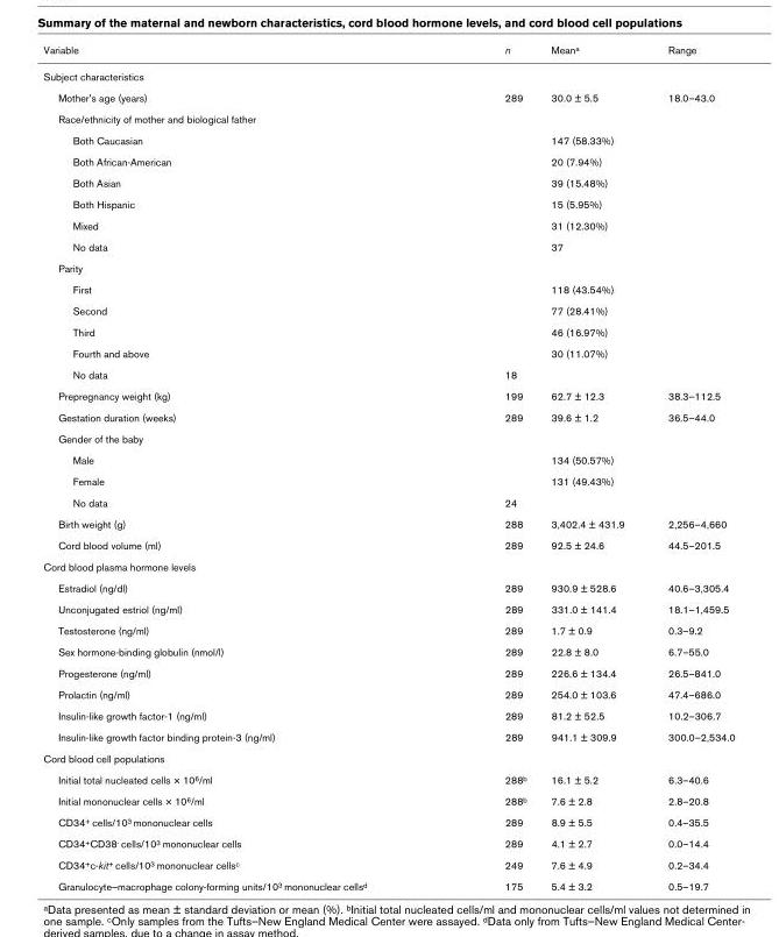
<table><thead><tr><td>Variable</td><td>n</td><td>Mean<sup>a</sup></td><td>Range</td></tr></thead><tbody><tr><td colspan="4">Subject characteristics</td></tr><tr><td>Mother&#x27;s age (years)</td><td>289</td><td>30.0 ± 5.5</td><td>18.0–43.0</td></tr><tr><td colspan="4">Race/ethnicity of mother and biological father</td></tr><tr><td>Both Caucasian</td><td></td><td>147 (58.33%)</td><td></td></tr><tr><td>Both African-American</td><td></td><td>20 (7.94%)</td><td></td></tr><tr><td>Both Asian</td><td></td><td>39 (15.48%)</td><td></td></tr><tr><td>Both Hispanic</td><td></td><td>15 (5.95%)</td><td></td></tr><tr><td>Mixed</td><td></td><td>31 (12.30%)</td><td></td></tr><tr><td>No data</td><td></td><td>37</td><td></td></tr><tr><td colspan="4">Parity</td></tr><tr><td>First</td><td></td><td>118 (43.54%)</td><td></td></tr><tr><td>Second</td><td></td><td>77 (28.41%)</td><td></td></tr><tr><td>Third</td><td></td><td>46 (16.97%)</td><td></td></tr><tr><td>Fourth and above</td><td></td><td>30 (11.07%)</td><td></td></tr><tr><td>No data</td><td>18</td><td></td><td></td></tr><tr><td>Prepregnancy weight (kg)</td><td>199</td><td>62.7 ± 12.3</td><td>38.3–112.5</td></tr><tr><td>Gestation duration (weeks)</td><td>289</td><td>39.6 ± 1.2</td><td>36.5–44.0</td></tr><tr><td colspan="4">Gender of the baby</td></tr><tr><td>Male</td><td></td><td>134 (50.57%)</td><td></td></tr><tr><td>Female</td><td></td><td>131 (49.43%)</td><td></td></tr><tr><td>No data</td><td>24</td><td></td><td></td></tr><tr><td>Birth weight (g)</td><td>288</td><td>3,402.4 ± 431.9</td><td>2,256–4,660</td></tr><tr><td>Cord blood volume (ml)</td><td>289</td><td>92.5 ± 24.6</td><td>44.5–201.5</td></tr><tr><td colspan="4">Cord blood plasma hormone levels</td></tr><tr><td>Estradiol (ng/dl)</td><td>289</td><td>930.9 ± 528.6</td><td>40.6–3,305.4</td></tr><tr><td>Unconjugated estriol (ng/ml)</td><td>289</td><td>331.0 ± 141.4</td><td>18.1–1,459.5</td></tr><tr><td>Testosterone (ng/ml)</td><td>289</td><td>1.7 ± 0.9</td><td>0.3–9.2</td></tr><tr><td>Sex hormone-binding globulin (nmol/l)</td><td>289</td><td>22.8 ± 8.0</td><td>6.7–55.0</td></tr><tr><td>Progesterone (ng/ml)</td><td>289</td><td>226.6 ± 134.4</td><td>26.5–841.0</td></tr><tr><td>Prolactin (ng/ml)</td><td>289</td><td>254.0 ± 103.6</td><td>47.4–686.0</td></tr><tr><td>Insulin-like growth factor-1 (ng/ml)</td><td>289</td><td>81.2 ± 52.5</td><td>10.2–306.7</td></tr><tr><td>Insulin-like growth factor binding protein-3 (ng/ml)</td><td>289</td><td>941.1 ± 309.9</td><td>300.0–2,534.0</td></tr><tr><td colspan="4">Cord blood cell populations</td></tr><tr><td>Initial total nucleated cells × 10<sup>6</sup>/ml</td><td>288<sup>b</sup></td><td>16.1 ± 5.2</td><td>6.3–40.6</td></tr><tr><td>Initial mononuclear cells × 10<sup>6</sup>/ml</td><td>288<sup>b</sup></td><td>7.6 ± 2.8</td><td>2.8–20.8</td></tr><tr><td>CD34<sup>+</sup> cells/10<sup>3</sup> mononuclear cells</td><td>289</td><td>8.9 ± 5.5</td><td>0.4–35.5</td></tr><tr><td>CD34<sup>+</sup>CD38<sup>-</sup> cells/10<sup>3</sup> mononuclear cells</td><td>289</td><td>4.1 ± 2.7</td><td>0.0–14.4</td></tr><tr><td>CD34<sup>+</sup>c-kit<sup>+</sup> cells/10<sup>3</sup> mononuclear cells<sup>c</sup></td><td>249</td><td>7.6 ± 4.9</td><td>0.2–34.4</td></tr><tr><td>Granulocyte–macrophage colony-forming units/10<sup>3</sup> mononuclear cells<sup>d</sup></td><td>175</td><td>5.4 ± 3.2</td><td>0.5–19.7</td></tr></tbody></table>